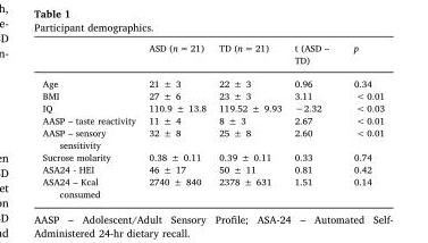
<table><thead><tr><td></td><td>ASD (n = 21)</td><td>TD (n = 21)</td><td>t (ASD – TD)</td><td>p</td></tr></thead><tbody><tr><td>Age</td><td>21 ± 3</td><td>22 ± 3</td><td>0.96</td><td>0.34</td></tr><tr><td>BMI</td><td>27 ± 6</td><td>23 ± 3</td><td>3.11</td><td>&lt; 0.01</td></tr><tr><td>IQ</td><td>110.9 ± 13.8</td><td>119.52 ± 9.93</td><td>−2.32</td><td>&lt; 0.03</td></tr><tr><td>AASP – taste reactivity</td><td>11 ± 4</td><td>8 ± 3</td><td>2.67</td><td>&lt; 0.01</td></tr><tr><td>AASP – sensory sensitivity</td><td>32 ± 8</td><td>25 ± 8</td><td>2.60</td><td>&lt; 0.01</td></tr><tr><td>Sucrose molarity</td><td>0.38 ± 0.11</td><td>0.39 ± 0.11</td><td>0.33</td><td>0.74</td></tr><tr><td>ASA24 - HEI</td><td>46 ± 17</td><td>50 ± 11</td><td>0.81</td><td>0.42</td></tr><tr><td>ASA24 – Kcal consumed</td><td>2740 ± 840</td><td>2378 ± 631</td><td>1.51</td><td>0.14</td></tr></tbody></table>